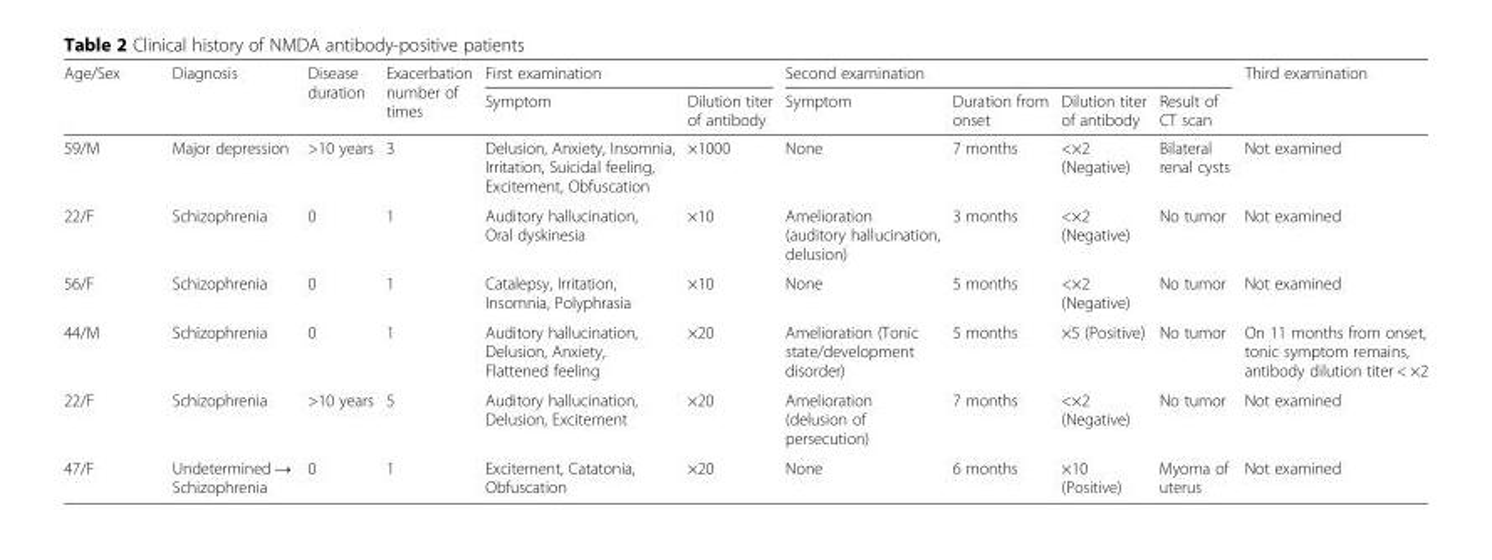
<table><thead><tr><td rowspan="2">Age/Sex</td><td rowspan="2">Diagnosis</td><td rowspan="2">Disease duration</td><td rowspan="2">Exacerbation number of times</td><td colspan="2">First examination</td><td colspan="4">Second examination</td><td rowspan="2">Third examination</td></tr><tr><td>Symptom</td><td>Dilution titer of antibody</td><td>Symptom</td><td>Duration from onset</td><td>Dilution titer of antibody</td><td>Result of CT scan</td></tr></thead><tbody><tr><td>59/M</td><td>Major depression</td><td>&gt;10 years</td><td>3</td><td>Delusion, Anxiety, Insomnia, Irritation, Suicidal feeling, Excitement, Obfuscation</td><td>×1000</td><td>None</td><td>7 months</td><td>&lt;×2 (Negative)</td><td>Bilateral renal cysts</td><td>Not examined</td></tr><tr><td>22/F</td><td>Schizophrenia</td><td>0</td><td>1</td><td>Auditory hallucination, Oral dyskinesia</td><td>×10</td><td>Amelioration (auditory hallucination, delusion)</td><td>3 months</td><td>&lt;×2 (Negative)</td><td>No tumor</td><td>Not examined</td></tr><tr><td>56/F</td><td>Schizophrenia</td><td>0</td><td>1</td><td>Catalepsy, Irritation, Insomnia, Polyphrasia</td><td>×10</td><td>None</td><td>5 months</td><td>&lt;×2 (Negative)</td><td>No tumor</td><td>Not examined</td></tr><tr><td>44/M</td><td>Schizophrenia</td><td>0</td><td>1</td><td>Auditory hallucination, Delusion, Anxiety, Flattened feeling</td><td>×20</td><td>Amelioration (Tonic state/development disorder)</td><td>5 months</td><td>×5 (Positive)</td><td>No tumor</td><td>On 11 months from onset, tonic symptom remains, antibody dilution titer &lt; ×2</td></tr><tr><td>22/F</td><td>Schizophrenia</td><td>&gt;10 years</td><td>5</td><td>Auditory hallucination, Delusion, Excitement</td><td>×20</td><td>Amelioration (delusion of persecution)</td><td>7 months</td><td>&lt;×2 (Negative)</td><td>No tumor</td><td>Not examined</td></tr><tr><td>47/F</td><td>Undetermined → Schizophrenia</td><td>0</td><td>1</td><td>Excitement, Catatonia, Obfuscation</td><td>×20</td><td>None</td><td>6 months</td><td>×10 (Positive)</td><td>Myoma of uterus</td><td>Not examined</td></tr></tbody></table>